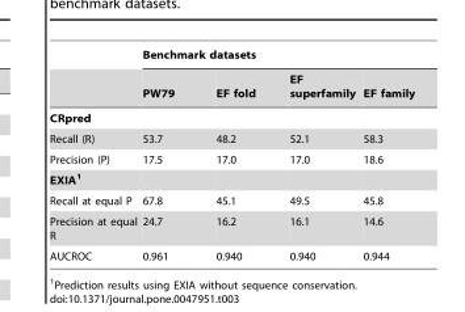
<table><thead><tr><td rowspan="2"></td><td colspan="4">Benchmark datasets</td></tr><tr><td>PW79</td><td>EF fold</td><td>EF superfamily</td><td>EF family</td></tr></thead><tbody><tr><td colspan="5">CRpred</td></tr><tr><td>Recall (R)</td><td>53.7</td><td>48.2</td><td>52.1</td><td>58.3</td></tr><tr><td>Precision (P)</td><td>17.5</td><td>17.0</td><td>17.0</td><td>18.6</td></tr><tr><td colspan="5">EXIA1</td></tr><tr><td>Recall at equal P</td><td>67.8</td><td>45.1</td><td>49.5</td><td>45.8</td></tr><tr><td>Precision at equal R</td><td>24.7</td><td>16.2</td><td>16.1</td><td>14.6</td></tr><tr><td>AUCROC</td><td>0.961</td><td>0.940</td><td>0.940</td><td>0.944</td></tr></tbody></table>